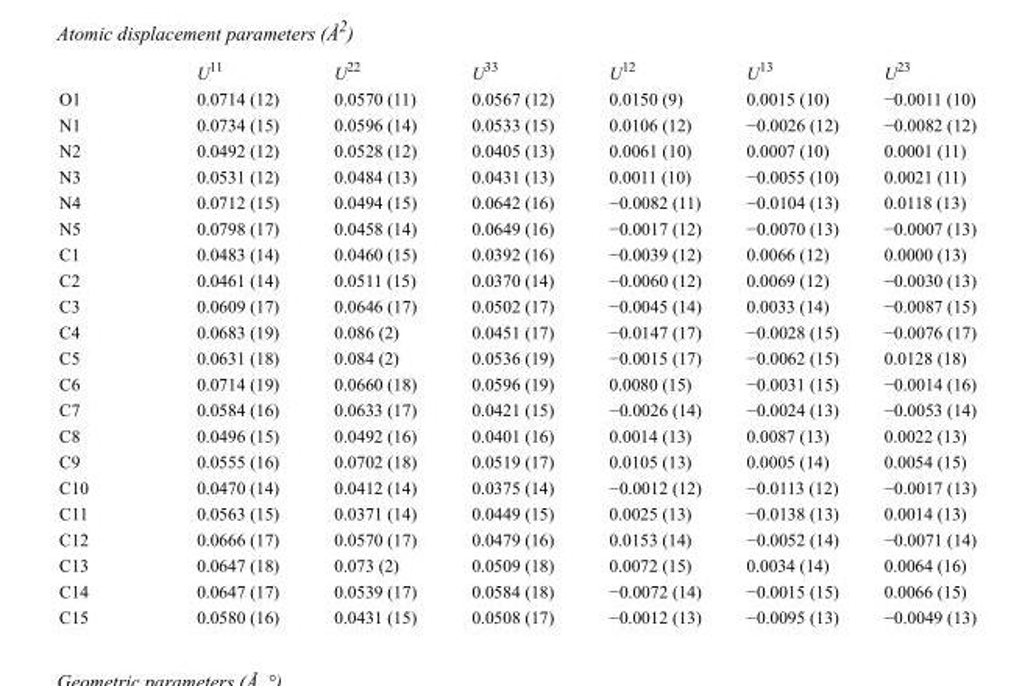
<table><thead><tr><td></td><td>U<sup>11</sup></td><td>U<sup>22</sup></td><td>U<sup>33</sup></td><td>U<sup>12</sup></td><td>U<sup>13</sup></td><td>U<sup>23</sup></td></tr></thead><tbody><tr><td>O1</td><td>0.0714 (12)</td><td>0.0570 (11)</td><td>0.0567 (12)</td><td>0.0150 (9)</td><td>0.0015 (10)</td><td>−0.0011 (10)</td></tr><tr><td>N1</td><td>0.0734 (15)</td><td>0.0596 (14)</td><td>0.0533 (15)</td><td>0.0106 (12)</td><td>−0.0026 (12)</td><td>−0.0082 (12)</td></tr><tr><td>N2</td><td>0.0492 (12)</td><td>0.0528 (12)</td><td>0.0405 (13)</td><td>0.0061 (10)</td><td>0.0007 (10)</td><td>0.0001 (11)</td></tr><tr><td>N3</td><td>0.0531 (12)</td><td>0.0484 (13)</td><td>0.0431 (13)</td><td>0.0011 (10)</td><td>−0.0055 (10)</td><td>0.0021 (11)</td></tr><tr><td>N4</td><td>0.0712 (15)</td><td>0.0494 (15)</td><td>0.0642 (16)</td><td>−0.0082 (11)</td><td>−0.0104 (13)</td><td>0.0118 (13)</td></tr><tr><td>N5</td><td>0.0798 (17)</td><td>0.0458 (14)</td><td>0.0649 (16)</td><td>−0.0017 (12)</td><td>−0.0070 (13)</td><td>−0.0007 (13)</td></tr><tr><td>C1</td><td>0.0483 (14)</td><td>0.0460 (15)</td><td>0.0392 (16)</td><td>−0.0039 (12)</td><td>0.0066 (12)</td><td>0.0000 (13)</td></tr><tr><td>C2</td><td>0.0461 (14)</td><td>0.0511 (15)</td><td>0.0370 (14)</td><td>−0.0060 (12)</td><td>0.0069 (12)</td><td>−0.0030 (13)</td></tr><tr><td>C3</td><td>0.0609 (17)</td><td>0.0646 (17)</td><td>0.0502 (17)</td><td>−0.0045 (14)</td><td>0.0033 (14)</td><td>−0.0087 (15)</td></tr><tr><td>C4</td><td>0.0683 (19)</td><td>0.086 (2)</td><td>0.0451 (17)</td><td>−0.0147 (17)</td><td>−0.0028 (15)</td><td>−0.0076 (17)</td></tr><tr><td>C5</td><td>0.0631 (18)</td><td>0.084 (2)</td><td>0.0536 (19)</td><td>−0.0015 (17)</td><td>−0.0062 (15)</td><td>0.0128 (18)</td></tr><tr><td>C6</td><td>0.0714 (19)</td><td>0.0660 (18)</td><td>0.0596 (19)</td><td>0.0080 (15)</td><td>−0.0031 (15)</td><td>−0.0014 (16)</td></tr><tr><td>C7</td><td>0.0584 (16)</td><td>0.0633 (17)</td><td>0.0421 (15)</td><td>−0.0026 (14)</td><td>−0.0024 (13)</td><td>−0.0053 (14)</td></tr><tr><td>C8</td><td>0.0496 (15)</td><td>0.0492 (16)</td><td>0.0401 (16)</td><td>0.0014 (13)</td><td>0.0087 (13)</td><td>0.0022 (13)</td></tr><tr><td>C9</td><td>0.0555 (16)</td><td>0.0702 (18)</td><td>0.0519 (17)</td><td>0.0105 (13)</td><td>0.0005 (14)</td><td>0.0054 (15)</td></tr><tr><td>C10</td><td>0.0470 (14)</td><td>0.0412 (14)</td><td>0.0375 (14)</td><td>−0.0012 (12)</td><td>−0.0113 (12)</td><td>−0.0017 (13)</td></tr><tr><td>C11</td><td>0.0563 (15)</td><td>0.0371 (14)</td><td>0.0449 (15)</td><td>0.0025 (13)</td><td>−0.0138 (13)</td><td>0.0014 (13)</td></tr><tr><td>C12</td><td>0.0666 (17)</td><td>0.0570 (17)</td><td>0.0479 (16)</td><td>0.0153 (14)</td><td>−0.0052 (14)</td><td>−0.0071 (14)</td></tr><tr><td>C13</td><td>0.0647 (18)</td><td>0.073 (2)</td><td>0.0509 (18)</td><td>0.0072 (15)</td><td>0.0034 (14)</td><td>0.0064 (16)</td></tr><tr><td>C14</td><td>0.0647 (17)</td><td>0.0539 (17)</td><td>0.0584 (18)</td><td>−0.0072 (14)</td><td>−0.0015 (15)</td><td>0.0066 (15)</td></tr><tr><td>C15</td><td>0.0580 (16)</td><td>0.0431 (15)</td><td>0.0508 (17)</td><td>−0.0012 (13)</td><td>−0.0095 (13)</td><td>−0.0049 (13)</td></tr></tbody></table>